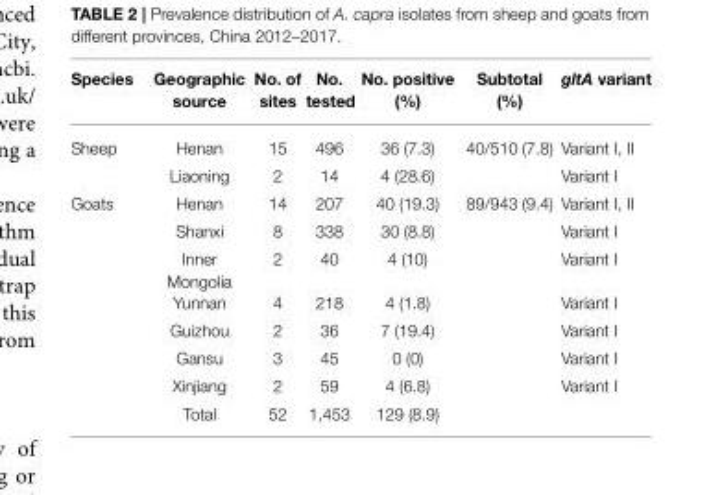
<table><thead><tr><td>Species</td><td>Geographic source</td><td>No. of sites</td><td>No. tested</td><td>No. positive (%)</td><td>Subtotal (%)</td><td>gltA variant</td></tr></thead><tbody><tr><td rowspan="2">Sheep</td><td>Henan</td><td>15</td><td>496</td><td>36 (7.3)</td><td>40/510 (7.8)</td><td>Variant I, II</td></tr><tr><td>Liaoning</td><td>2</td><td>14</td><td>4 (28.6)</td><td></td><td>Variant I</td></tr><tr><td rowspan="8">Goats</td><td>Henan</td><td>14</td><td>207</td><td>40 (19.3)</td><td>89/943 (9.4)</td><td>Variant I, II</td></tr><tr><td>Shanxi</td><td>8</td><td>338</td><td>30 (8.8)</td><td></td><td>Variant I</td></tr><tr><td>Inner Mongolia</td><td>2</td><td>40</td><td>4 (10)</td><td></td><td>Variant I</td></tr><tr><td>Yunnan</td><td>4</td><td>218</td><td>4 (1.8)</td><td></td><td>Variant I</td></tr><tr><td>Guizhou</td><td>2</td><td>36</td><td>7 (19.4)</td><td></td><td>Variant I</td></tr><tr><td>Gansu</td><td>3</td><td>45</td><td>0 (0)</td><td></td><td>Variant I</td></tr><tr><td>Xinjiang</td><td>2</td><td>59</td><td>4 (6.8)</td><td></td><td>Variant I</td></tr><tr><td>Total</td><td>52</td><td>1,453</td><td>129 (8.9)</td><td></td><td></td></tr></tbody></table>